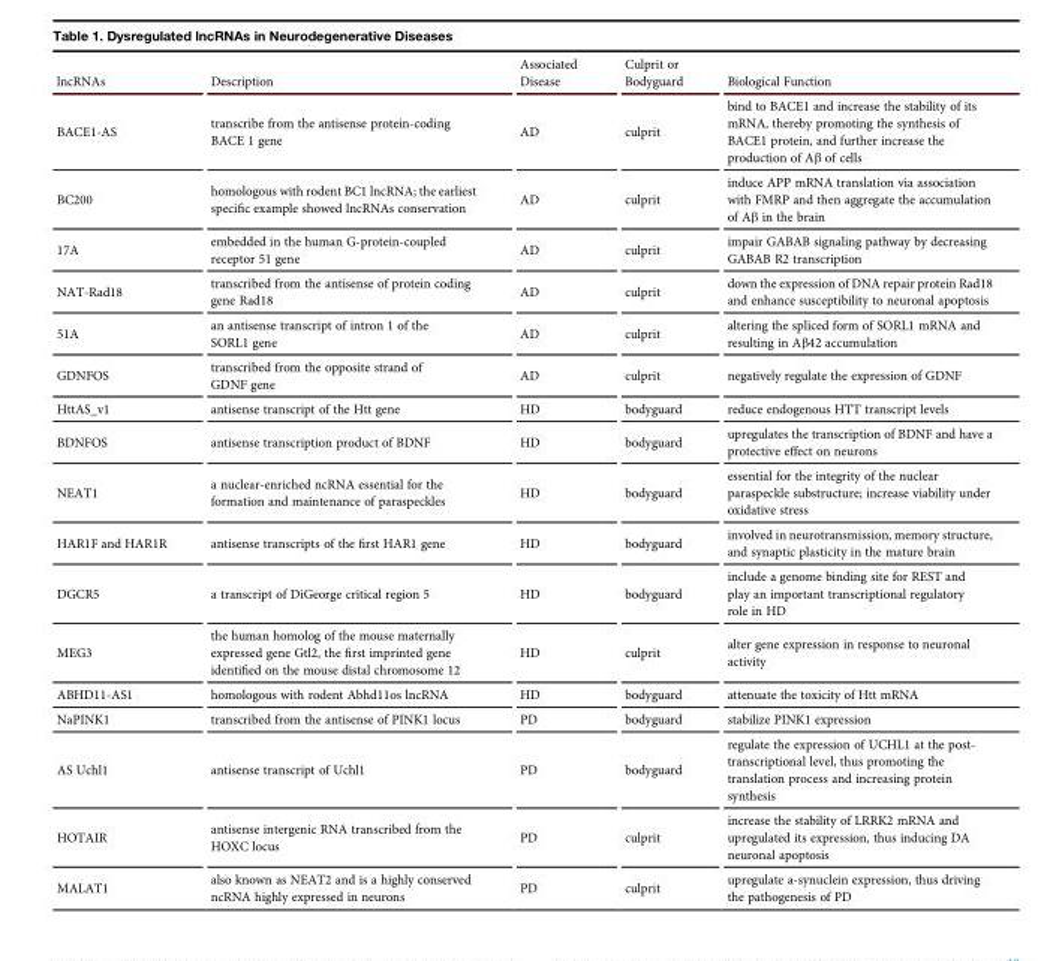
<table><thead><tr><td>lncRNAs</td><td>Description</td><td>Associated Disease</td><td>Culprit or Bodyguard</td><td>Biological Function</td></tr></thead><tbody><tr><td>BACE1-AS</td><td>transcribe from the antisense protein-coding BACE 1 gene</td><td>AD</td><td>culprit</td><td>bind to BACE1 and increase the stability of its mRNA, thereby promoting the synthesis of BACE1 protein, and further increase the production of Aβ of cells</td></tr><tr><td>BC200</td><td>homologous with rodent BC1 lncRNA; the earliest specific example showed lncRNAs conservation</td><td>AD</td><td>culprit</td><td>induce APP mRNA translation via association with FMRP and then aggregate the accumulation of Aβ in the brain</td></tr><tr><td>17A</td><td>embedded in the human G-protein-coupled receptor 51 gene</td><td>AD</td><td>culprit</td><td>impair GABAB signaling pathway by decreasing GABAB R2 transcription</td></tr><tr><td>NAT-Rad18</td><td>transcribed from the antisense of protein coding gene Rad18</td><td>AD</td><td>culprit</td><td>down the expression of DNA repair protein Rad18 and enhance susceptibility to neuronal apoptosis</td></tr><tr><td>51A</td><td>an antisense transcript of intron 1 of the SORL1 gene</td><td>AD</td><td>culprit</td><td>altering the spliced form of SORL1 mRNA and resulting in Aβ42 accumulation</td></tr><tr><td>GDNFOS</td><td>transcribed from the opposite strand of GDNF gene</td><td>AD</td><td>culprit</td><td>negatively regulate the expression of GDNF</td></tr><tr><td>HttAS_v1</td><td>antisense transcript of the Htt gene</td><td>HD</td><td>bodyguard</td><td>reduce endogenous HTT transcript levels</td></tr><tr><td>BDNFOS</td><td>antisense transcription product of BDNF</td><td>HD</td><td>bodyguard</td><td>upregulates the transcription of BDNF and have a protective effect on neurons</td></tr><tr><td>NEAT1</td><td>a nuclear-enriched ncRNA essential for the formation and maintenance of paraspeckles</td><td>HD</td><td>bodyguard</td><td>essential for the integrity of the nuclear paraspeckle substructure; increase viability under oxidative stress</td></tr><tr><td>HAR1F and HAR1R</td><td>antisense transcripts of the first HAR1 gene</td><td>HD</td><td>bodyguard</td><td>involved in neurotransmission, memory structure, and synaptic plasticity in the mature brain</td></tr><tr><td>DGCR5</td><td>a transcript of DiGeorge critical region 5</td><td>HD</td><td>bodyguard</td><td>include a genome binding site for REST and play an important transcriptional regulatory role in HD</td></tr><tr><td>MEG3</td><td>the human homolog of the mouse maternally expressed gene Gtl2, the first imprinted gene identified on the mouse distal chromosome 12</td><td>HD</td><td>culprit</td><td>alter gene expression in response to neuronal activity</td></tr><tr><td>ABHD11-AS1</td><td>homologous with rodent Abhd11os lncRNA</td><td>HD</td><td>bodyguard</td><td>attenuate the toxicity of Htt mRNA</td></tr><tr><td>NaPINK1</td><td>transcribed from the antisense of PINK1 locus</td><td>PD</td><td>bodyguard</td><td>stabilize PINK1 expression</td></tr><tr><td>AS Uchl1</td><td>antisense transcript of Uchl1</td><td>PD</td><td>bodyguard</td><td>regulate the expression of UCHL1 at the post- transcriptional level, thus promoting the translation process and increasing protein synthesis</td></tr><tr><td>HOTAIR</td><td>antisense intergenic RNA transcribed from the HOXC locus</td><td>PD</td><td>culprit</td><td>increase the stability of LRRK2 mRNA and upregulated its expression, thus inducing DA neuronal apoptosis</td></tr><tr><td>MALAT1</td><td>also known as NEAT2 and is a highly conserved ncRNA highly expressed in neurons</td><td>PD</td><td>culprit</td><td>upregulate a-synuclein expression, thus driving the pathogenesis of PD</td></tr></tbody></table>